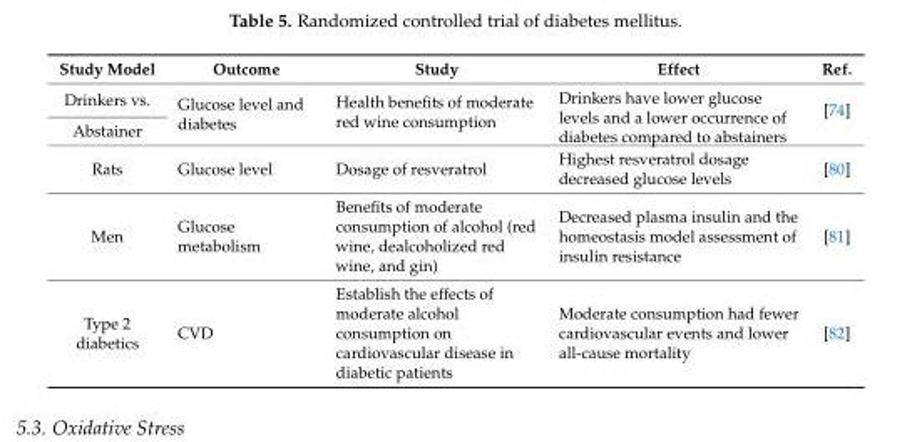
<table><thead><tr><td>Study Model</td><td>Outcome</td><td>Study</td><td>Effect</td><td>Ref.</td></tr></thead><tbody><tr><td>Drinkers vs.</td><td rowspan="2">Glucose level and diabetes</td><td rowspan="2">Health benefits of moderate red wine consumption</td><td rowspan="2">Drinkers have lower glucose levels and a lower occurrence of diabetes compared to abstainers</td><td rowspan="2">[74]</td></tr><tr><td>Abstainer</td></tr><tr><td>Rats</td><td>Glucose level</td><td>Dosage of resveratrol</td><td>Highest resveratrol dosage decreased glucose levels</td><td>[80]</td></tr><tr><td>Men</td><td>Glucose metabolism</td><td>Benefits of moderate consumption of alcohol (red wine, dealcoholized red wine, and gin)</td><td>Decreased plasma insulin and the homeostasis model assessment of insulin resistance</td><td>[81]</td></tr><tr><td>Type 2 diabetics</td><td>CVD</td><td>Establish the effects of moderate alcohol consumption on cardiovascular disease in diabetic patients</td><td>Moderate consumption had fewer cardiovascular events and lower all-cause mortality</td><td>[82]</td></tr></tbody></table>